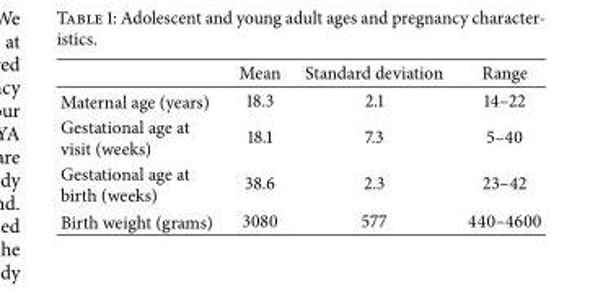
<table><thead><tr><td></td><td>Mean</td><td>Standard deviation</td><td>Range</td></tr></thead><tbody><tr><td>Maternal age (years)</td><td>18.3</td><td>2.1</td><td>14–22</td></tr><tr><td>Gestational age at visit (weeks)</td><td>18.1</td><td>7.3</td><td>5–40</td></tr><tr><td>Gestational age at birth (weeks)</td><td>38.6</td><td>2.3</td><td>23–42</td></tr><tr><td>Birth weight (grams)</td><td>3080</td><td>577</td><td>440–4600</td></tr></tbody></table>